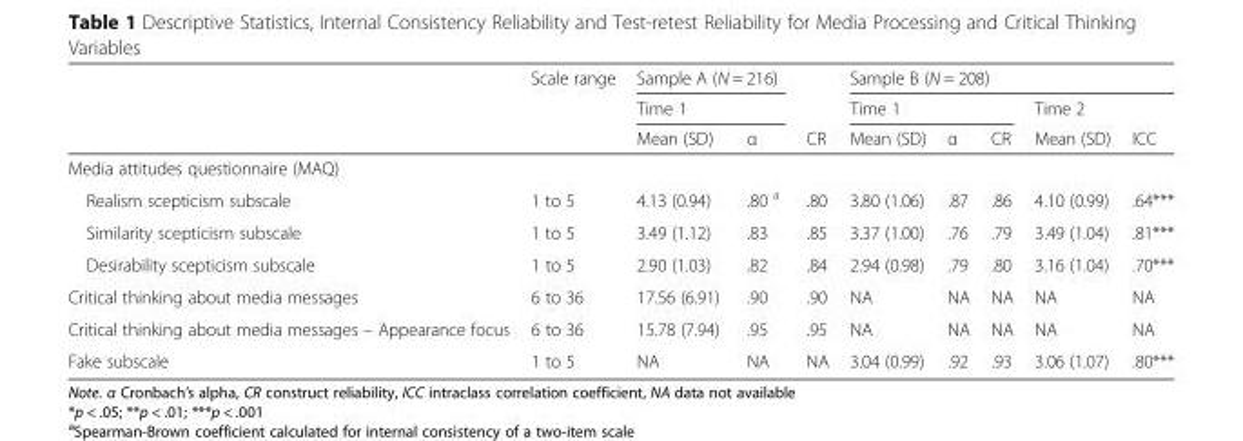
<table><thead><tr><td rowspan="3"></td><td rowspan="3">Scale range</td><td rowspan="2" colspan="2">Sample A (N = 216) Time 1</td><td rowspan="3">CR</td><td colspan="5">Sample B (N = 208)</td></tr><tr><td colspan="3">Time 1</td><td rowspan="2">Time 2 Mean (SD)</td><td rowspan="2">ICC</td></tr><tr><td>Mean (SD)</td><td>α</td><td>Mean (SD)</td><td>α</td><td>CR</td></tr></thead><tbody><tr><td colspan="10">Media attitudes questionnaire (MAQ)</td></tr><tr><td>Realism scepticism subscale</td><td>1 to 5</td><td>4.13 (0.94)</td><td>.80 <sup>a</sup></td><td>.80</td><td>3.80 (1.06)</td><td>.87</td><td>.86</td><td>4.10 (0.99)</td><td>.64***</td></tr><tr><td>Similarity scepticism subscale</td><td>1 to 5</td><td>3.49 (1.12)</td><td>.83</td><td>.85</td><td>3.37 (1.00)</td><td>.76</td><td>.79</td><td>3.49 (1.04)</td><td>.81***</td></tr><tr><td>Desirability scepticism subscale</td><td>1 to 5</td><td>2.90 (1.03)</td><td>.82</td><td>.84</td><td>2.94 (0.98)</td><td>.79</td><td>.80</td><td>3.16 (1.04)</td><td>.70***</td></tr><tr><td>Critical thinking about media messages</td><td>6 to 36</td><td>17.56 (6.91)</td><td>.90</td><td>.90</td><td>NA</td><td>NA</td><td>NA</td><td>NA</td><td>NA</td></tr><tr><td>Critical thinking about media messages – Appearance focus</td><td>6 to 36</td><td>15.78 (7.94)</td><td>.95</td><td>.95</td><td>NA</td><td>NA</td><td>NA</td><td>NA</td><td>NA</td></tr><tr><td>Fake subscale</td><td>1 to 5</td><td>NA</td><td>NA</td><td>NA</td><td>3.04 (0.99)</td><td>.92</td><td>.93</td><td>3.06 (1.07)</td><td>.80***</td></tr></tbody></table>